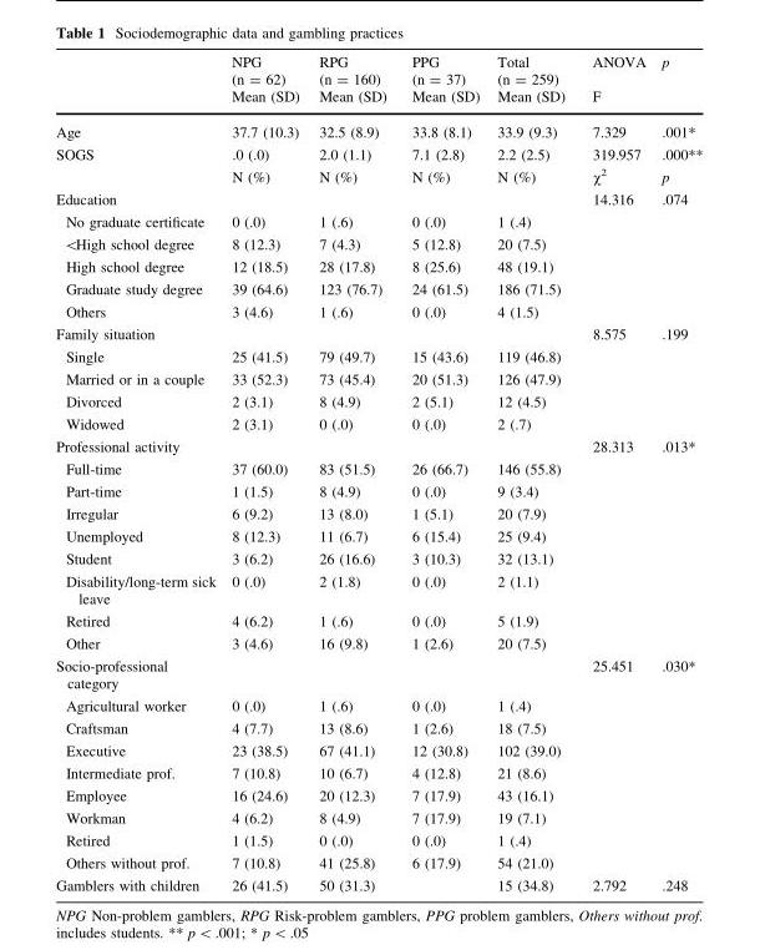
<table><thead><tr><td rowspan="2"></td><td rowspan="2">NPG (n = 62) Mean (SD)</td><td rowspan="2">RPG (n = 160) Mean (SD)</td><td rowspan="2">PPG (n = 37) Mean (SD)</td><td rowspan="2">Total (n = 259) Mean (SD)</td><td rowspan="2">ANOVA F</td><td rowspan="2">p</td></tr><tr></tr></thead><tbody><tr><td>Age</td><td>37.7 (10.3)</td><td>32.5 (8.9)</td><td>33.8 (8.1)</td><td>33.9 (9.3)</td><td>7.329</td><td>.001*</td></tr><tr><td rowspan="2">SOGS</td><td>.0 (.0)</td><td>2.0 (1.1)</td><td>7.1 (2.8)</td><td>2.2 (2.5)</td><td>319.957</td><td>.000**</td></tr><tr><td>N (%)</td><td>N (%)</td><td>N (%)</td><td>N (%)</td><td>χ<sup>2</sup></td><td>p</td></tr><tr><td>Education</td><td></td><td></td><td></td><td></td><td>14.316</td><td>.074</td></tr><tr><td>No graduate certificate</td><td>0 (.0)</td><td>1 (.6)</td><td>0 (.0)</td><td>1 (.4)</td><td></td><td></td></tr><tr><td>&lt;High school degree</td><td>8 (12.3)</td><td>7 (4.3)</td><td>5 (12.8)</td><td>20 (7.5)</td><td></td><td></td></tr><tr><td>High school degree</td><td>12 (18.5)</td><td>28 (17.8)</td><td>8 (25.6)</td><td>48 (19.1)</td><td></td><td></td></tr><tr><td>Graduate study degree</td><td>39 (64.6)</td><td>123 (76.7)</td><td>24 (61.5)</td><td>186 (71.5)</td><td></td><td></td></tr><tr><td>Others</td><td>3 (4.6)</td><td>1 (.6)</td><td>0 (.0)</td><td>4 (1.5)</td><td></td><td></td></tr><tr><td>Family situation</td><td></td><td></td><td></td><td></td><td>8.575</td><td>.199</td></tr><tr><td>Single</td><td>25 (41.5)</td><td>79 (49.7)</td><td>15 (43.6)</td><td>119 (46.8)</td><td></td><td></td></tr><tr><td>Married or in a couple</td><td>33 (52.3)</td><td>73 (45.4)</td><td>20 (51.3)</td><td>126 (47.9)</td><td></td><td></td></tr><tr><td>Divorced</td><td>2 (3.1)</td><td>8 (4.9)</td><td>2 (5.1)</td><td>12 (4.5)</td><td></td><td></td></tr><tr><td>Widowed</td><td>2 (3.1)</td><td>0 (.0)</td><td>0 (.0)</td><td>2 (.7)</td><td></td><td></td></tr><tr><td>Professional activity</td><td></td><td></td><td></td><td></td><td>28.313</td><td>.013*</td></tr><tr><td>Full-time</td><td>37 (60.0)</td><td>83 (51.5)</td><td>26 (66.7)</td><td>146 (55.8)</td><td></td><td></td></tr><tr><td>Part-time</td><td>1 (1.5)</td><td>8 (4.9)</td><td>0 (.0)</td><td>9 (3.4)</td><td></td><td></td></tr><tr><td>Irregular</td><td>6 (9.2)</td><td>13 (8.0)</td><td>1 (5.1)</td><td>20 (7.9)</td><td></td><td></td></tr><tr><td>Unemployed</td><td>8 (12.3)</td><td>11 (6.7)</td><td>6 (15.4)</td><td>25 (9.4)</td><td></td><td></td></tr><tr><td>Student</td><td>3 (6.2)</td><td>26 (16.6)</td><td>3 (10.3)</td><td>32 (13.1)</td><td></td><td></td></tr><tr><td>Disability/long-term sick leave</td><td>0 (.0)</td><td>2 (1.8)</td><td>0 (.0)</td><td>2 (1.1)</td><td></td><td></td></tr><tr><td>Retired</td><td>4 (6.2)</td><td>1 (.6)</td><td>0 (.0)</td><td>5 (1.9)</td><td></td><td></td></tr><tr><td>Other</td><td>3 (4.6)</td><td>16 (9.8)</td><td>1 (2.6)</td><td>20 (7.5)</td><td></td><td></td></tr><tr><td>Socio-professional category</td><td></td><td></td><td></td><td></td><td>25.451</td><td>.030*</td></tr><tr><td>Agricultural worker</td><td>0 (.0)</td><td>1 (.6)</td><td>0 (.0)</td><td>1 (.4)</td><td></td><td></td></tr><tr><td>Craftsman</td><td>4 (7.7)</td><td>13 (8.6)</td><td>1 (2.6)</td><td>18 (7.5)</td><td></td><td></td></tr><tr><td>Executive</td><td>23 (38.5)</td><td>67 (41.1)</td><td>12 (30.8)</td><td>102 (39.0)</td><td></td><td></td></tr><tr><td>Intermediate prof.</td><td>7 (10.8)</td><td>10 (6.7)</td><td>4 (12.8)</td><td>21 (8.6)</td><td></td><td></td></tr><tr><td>Employee</td><td>16 (24.6)</td><td>20 (12.3)</td><td>7 (17.9)</td><td>43 (16.1)</td><td></td><td></td></tr><tr><td>Workman</td><td>4 (6.2)</td><td>8 (4.9)</td><td>7 (17.9)</td><td>19 (7.1)</td><td></td><td></td></tr><tr><td>Retired</td><td>1 (1.5)</td><td>0 (.0)</td><td>0 (.0)</td><td>1 (.4)</td><td></td><td></td></tr><tr><td>Others without prof.</td><td>7 (10.8)</td><td>41 (25.8)</td><td>6 (17.9)</td><td>54 (21.0)</td><td></td><td></td></tr><tr><td>Gamblers with children</td><td>26 (41.5)</td><td>50 (31.3)</td><td></td><td>15 (34.8)</td><td>2.792</td><td>.248</td></tr></tbody></table>